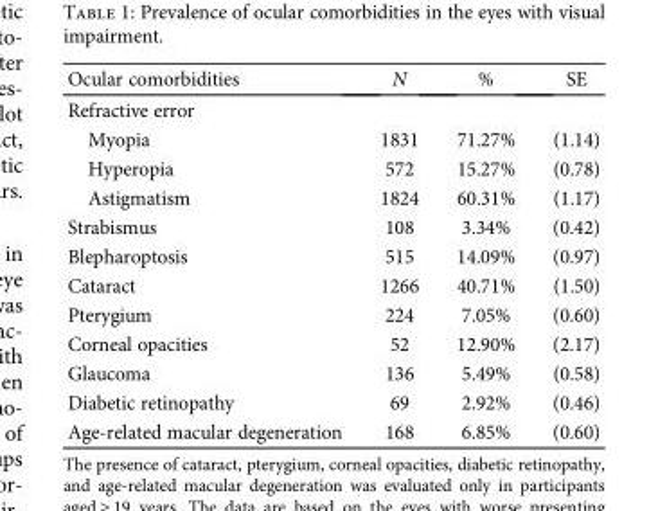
<table><thead><tr><td>Ocular comorbidities</td><td>N</td><td>%</td><td>SE</td></tr></thead><tbody><tr><td colspan="4">Refractive error</td></tr><tr><td>Myopia</td><td>1831</td><td>71.27%</td><td>(1.14)</td></tr><tr><td>Hyperopia</td><td>572</td><td>15.27%</td><td>(0.78)</td></tr><tr><td>Astigmatism</td><td>1824</td><td>60.31%</td><td>(1.17)</td></tr><tr><td>Strabismus</td><td>108</td><td>3.34%</td><td>(0.42)</td></tr><tr><td>Blepharoptosis</td><td>515</td><td>14.09%</td><td>(0.97)</td></tr><tr><td>Cataract</td><td>1266</td><td>40.71%</td><td>(1.50)</td></tr><tr><td>Pterygium</td><td>224</td><td>7.05%</td><td>(0.60)</td></tr><tr><td>Corneal opacities</td><td>52</td><td>12.90%</td><td>(2.17)</td></tr><tr><td>Glaucoma</td><td>136</td><td>5.49%</td><td>(0.58)</td></tr><tr><td>Diabetic retinopathy</td><td>69</td><td>2.92%</td><td>(0.46)</td></tr><tr><td>Age-related macular degeneration</td><td>168</td><td>6.85%</td><td>(0.60)</td></tr></tbody></table>